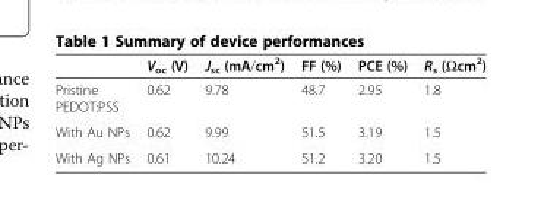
<table><thead><tr><td></td><td>V<sub>oc</sub> (V)</td><td>J<sub>sc</sub> (mA/cm<sup>2</sup>)</td><td>FF (%)</td><td>PCE (%)</td><td>R<sub>s</sub> (Ωcm<sup>2</sup>)</td></tr></thead><tbody><tr><td>Pristine PEDOT:PSS</td><td>0.62</td><td>9.78</td><td>48.7</td><td>2.95</td><td>1.8</td></tr><tr><td>With Au NPs</td><td>0.62</td><td>9.99</td><td>51.5</td><td>3.19</td><td>1.5</td></tr><tr><td>With Ag NPs</td><td>0.61</td><td>10.24</td><td>51.2</td><td>3.20</td><td>1.5</td></tr></tbody></table>